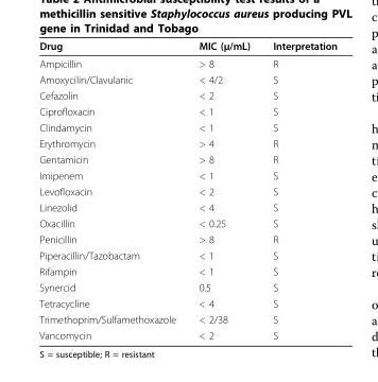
<table><thead><tr><td>Drug</td><td>MIC (μ/mL)</td><td>Interpretation</td></tr></thead><tbody><tr><td>Ampicillin</td><td>&gt; 8</td><td>R</td></tr><tr><td>Amoxycilin/Clavulanic</td><td>&lt; 4/2</td><td>S</td></tr><tr><td>Cefazolin</td><td>&lt; 2</td><td>S</td></tr><tr><td>Ciprofloxacin</td><td>&lt; 1</td><td>S</td></tr><tr><td>Clindamycin</td><td>&lt; 1</td><td>S</td></tr><tr><td>Erythromycin</td><td>&gt; 4</td><td>R</td></tr><tr><td>Gentamicin</td><td>&gt; 8</td><td>R</td></tr><tr><td>Imipenem</td><td>&lt; 1</td><td>S</td></tr><tr><td>Levofloxacin</td><td>&lt; 2</td><td>S</td></tr><tr><td>Linezolid</td><td>&lt; 4</td><td>S</td></tr><tr><td>Oxacillin</td><td>&lt; 0.25</td><td>S</td></tr><tr><td>Penicillin</td><td>&gt; 8</td><td>R</td></tr><tr><td>Piperacillin/Tazobactam</td><td>&lt; 1</td><td>S</td></tr><tr><td>Rifampin</td><td>&lt; 1</td><td>S</td></tr><tr><td>Synercid</td><td>0.5</td><td>S</td></tr><tr><td>Tetracycline</td><td>&lt; 4</td><td>S</td></tr><tr><td>Trimethoprim/Sulfamethoxazole</td><td>&lt; 2/38</td><td>S</td></tr><tr><td>Vancomycin</td><td>&lt; 2</td><td>S</td></tr></tbody></table>